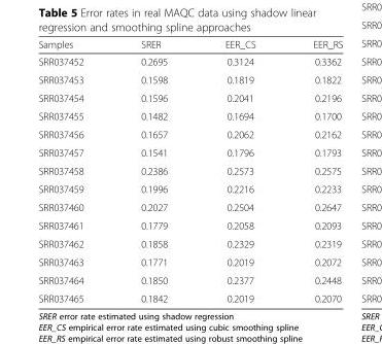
<table><thead><tr><td>Samples</td><td>SRER</td><td>EER_CS</td><td>EER_RS</td></tr></thead><tbody><tr><td>SRR037452</td><td>0.2695</td><td>0.3124</td><td>0.3362</td></tr><tr><td>SRR037453</td><td>0.1598</td><td>0.1819</td><td>0.1822</td></tr><tr><td>SRR037454</td><td>0.1596</td><td>0.2041</td><td>0.2196</td></tr><tr><td>SRR037455</td><td>0.1482</td><td>0.1694</td><td>0.1700</td></tr><tr><td>SRR037456</td><td>0.1657</td><td>0.2062</td><td>0.2162</td></tr><tr><td>SRR037457</td><td>0.1541</td><td>0.1796</td><td>0.1793</td></tr><tr><td>SRR037458</td><td>0.2386</td><td>0.2573</td><td>0.2575</td></tr><tr><td>SRR037459</td><td>0.1996</td><td>0.2216</td><td>0.2233</td></tr><tr><td>SRR037460</td><td>0.2027</td><td>0.2504</td><td>0.2647</td></tr><tr><td>SRR037461</td><td>0.1779</td><td>0.2058</td><td>0.2093</td></tr><tr><td>SRR037462</td><td>0.1858</td><td>0.2329</td><td>0.2319</td></tr><tr><td>SRR037463</td><td>0.1771</td><td>0.2019</td><td>0.2072</td></tr><tr><td>SRR037464</td><td>0.1850</td><td>0.2377</td><td>0.2448</td></tr><tr><td>SRR037465</td><td>0.1842</td><td>0.2019</td><td>0.2070</td></tr></tbody></table>